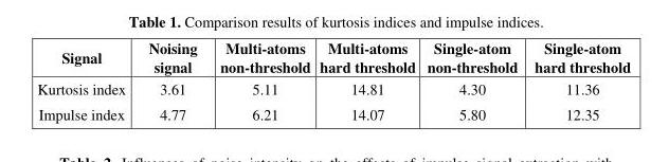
<table><thead><tr><td>Signal</td><td>Noising signal</td><td>Multi-atoms non-threshold</td><td>Multi-atoms hard threshold</td><td>Single-atom non-threshold</td><td>Single-atom hard threshold</td></tr></thead><tbody><tr><td>Kurtosis index</td><td>3.61</td><td>5.11</td><td>14.81</td><td>4.30</td><td>11.36</td></tr><tr><td>Impulse index</td><td>4.77</td><td>6.21</td><td>14.07</td><td>5.80</td><td>12.35</td></tr></tbody></table>